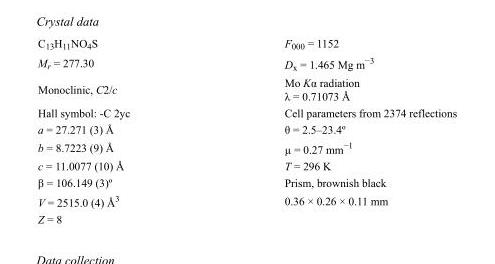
<table><tbody><tr><td>C<sub>13</sub>H<sub>11</sub>NO<sub>4</sub>S</td><td>F000 = 1152</td></tr><tr><td>M<sub>r</sub> = 277.30</td><td>D<sub>x</sub> = 1.465 Mg m<sup>−3</sup></td></tr><tr><td>Monoclinic, C2/c</td><td>Mo Kα radiation λ = 0.71073 Å</td></tr><tr><td>Hall symbol: -C 2yc</td><td>Cell parameters from 2374 reflections</td></tr><tr><td>a = 27.271 (3) Å</td><td>θ = 2.5–23.4º</td></tr><tr><td>b = 8.7223 (9) Å</td><td>µ = 0.27 mm<sup>−1</sup></td></tr><tr><td>c = 11.0077 (10) Å</td><td>T = 296 K</td></tr><tr><td>β = 106.149 (3)º</td><td>Prism, brownish black</td></tr><tr><td>V = 2515.0 (4) Å<sup>3</sup></td><td>0.36 × 0.26 × 0.11 mm</td></tr><tr><td>Z = 8</td><td></td></tr></tbody></table>